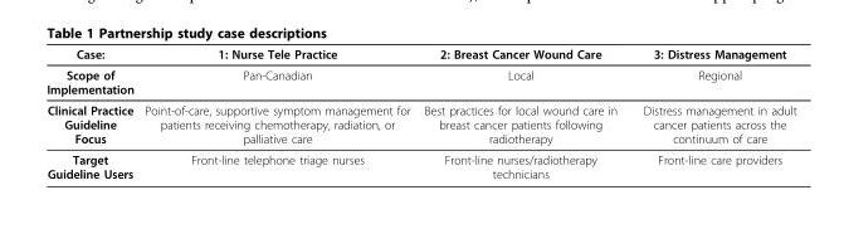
<table><thead><tr><td>Case:</td><td>1: Nurse Tele Practice</td><td>2: Breast Cancer Wound Care</td><td>3: Distress Management</td></tr></thead><tbody><tr><td>Scope of Implementation</td><td>Pan-Canadian</td><td>Local</td><td>Regional</td></tr><tr><td>Clinical Practice Guideline Focus</td><td>Point-of-care, supportive symptom management for patients receiving chemotherapy, radiation, or palliative care</td><td>Best practices for local wound care in breast cancer patients following radiotherapy</td><td>Distress management in adult cancer patients across the continuum of care</td></tr><tr><td>Target Guideline Users</td><td>Front-line telephone triage nurses</td><td>Front-line nurses/radiotherapy technicians</td><td>Front-line care providers</td></tr></tbody></table>